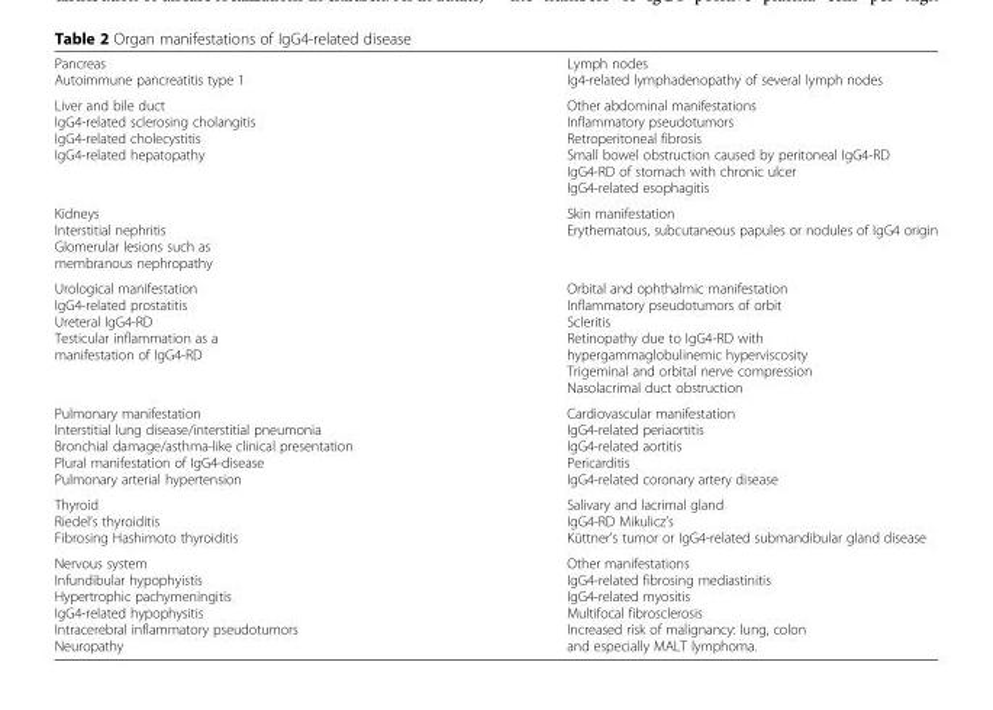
<table><tbody><tr><td>Pancreas Autoimmune pancreatitis type 1</td><td>Lymph nodes Ig4-related lymphadenopathy of several lymph nodes</td></tr><tr><td>Liver and bile duct IgG4-related sclerosing cholangitis IgG4-related cholecystitis IgG4-related hepatopathy</td><td>Other abdominal manifestations Inflammatory pseudotumors Retroperitoneal fibrosis Small bowel obstruction caused by peritoneal IgG4-RD IgG4-RD of stomach with chronic ulcer IgG4-related esophagitis</td></tr><tr><td>Kidneys Interstitial nephritis Glomerular lesions such as membranous nephropathy</td><td>Skin manifestation Erythematous, subcutaneous papules or nodules of IgG4 origin</td></tr><tr><td>Urological manifestation IgG4-related prostatitis Ureteral IgG4-RD Testicular inflammation as a manifestation of IgG4-RD</td><td>Orbital and ophthalmic manifestation Inflammatory pseudotumors of orbit Scleritis Retinopathy due to IgG4-RD with hypergammaglobulinemic hyperviscosity Trigeminal and orbital nerve compression Nasolacrimal duct obstruction</td></tr><tr><td>Pulmonary manifestation Interstitial lung disease/interstitial pneumonia Bronchial damage/asthma-like clinical presentation Plural manifestation of IgG4-disease Pulmonary arterial hypertension</td><td>Cardiovascular manifestation IgG4-related periaortitis IgG4-related aortitis Pericarditis IgG4-related coronary artery disease</td></tr><tr><td>Thyroid Riedel’s thyroiditis Fibrosing Hashimoto thyroiditis</td><td>Salivary and lacrimal gland IgG4-RD Mikulicz’s Küttner&#x27;s tumor or IgG4-related submandibular gland disease</td></tr><tr><td>Nervous system Infundibular hypophyistis Hypertrophic pachymeningitis IgG4-related hypophysitis Intracerebral inflammatory pseudotumors Neuropathy</td><td>Other manifestations IgG4-related fibrosing mediastinitis IgG4-related myositis Multifocal fibrosclerosis Increased risk of malignancy: lung, colon and especially MALT lymphoma.</td></tr></tbody></table>